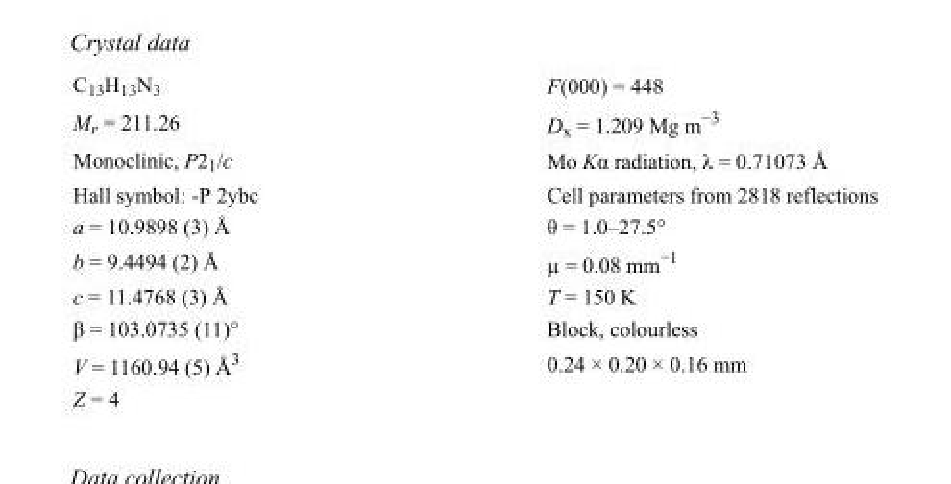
<table><tbody><tr><td>C<sub>13</sub>H<sub>13</sub>N<sub>3</sub></td><td>F(000) = 448</td></tr><tr><td>M<sub>r</sub> = 211.26</td><td>D<sub>x</sub> = 1.209 Mg m<sup>−3</sup></td></tr><tr><td>Monoclinic, P2<sub>1</sub>/c</td><td>Mo Kα radiation, λ = 0.71073 Å</td></tr><tr><td>Hall symbol: -P 2ybc</td><td>Cell parameters from 2818 reflections</td></tr><tr><td>a = 10.9898 (3) Å</td><td>θ = 1.0–27.5°</td></tr><tr><td>b = 9.4494 (2) Å</td><td>µ = 0.08 mm<sup>−1</sup></td></tr><tr><td>c = 11.4768 (3) Å</td><td>T = 150 K</td></tr><tr><td>β = 103.0735 (11)°</td><td>Block, colourless</td></tr><tr><td>V = 1160.94 (5) Å<sup>3</sup></td><td>0.24 × 0.20 × 0.16 mm</td></tr><tr><td>Z = 4</td><td></td></tr></tbody></table>